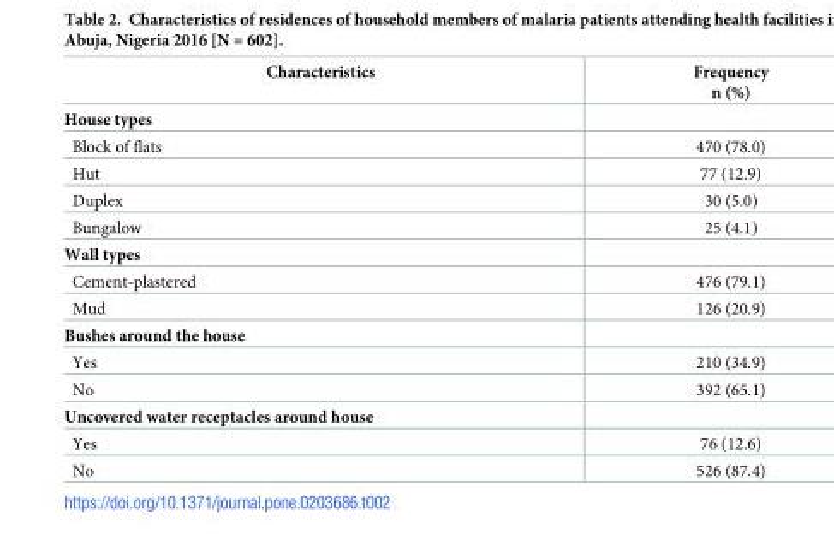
<table><thead><tr><td>Characteristics</td><td>Frequency n (%)</td></tr></thead><tbody><tr><td colspan="2">House types</td></tr><tr><td>Block of flats</td><td>470 (78.0)</td></tr><tr><td>Hut</td><td>77 (12.9)</td></tr><tr><td>Duplex</td><td>30 (5.0)</td></tr><tr><td>Bungalow</td><td>25 (4.1)</td></tr><tr><td colspan="2">Wall types</td></tr><tr><td>Cement-plastered</td><td>476 (79.1)</td></tr><tr><td>Mud</td><td>126 (20.9)</td></tr><tr><td colspan="2">Bushes around the house</td></tr><tr><td>Yes</td><td>210 (34.9)</td></tr><tr><td>No</td><td>392 (65.1)</td></tr><tr><td colspan="2">Uncovered water receptacles around house</td></tr><tr><td>Yes</td><td>76 (12.6)</td></tr><tr><td>No</td><td>526 (87.4)</td></tr></tbody></table>